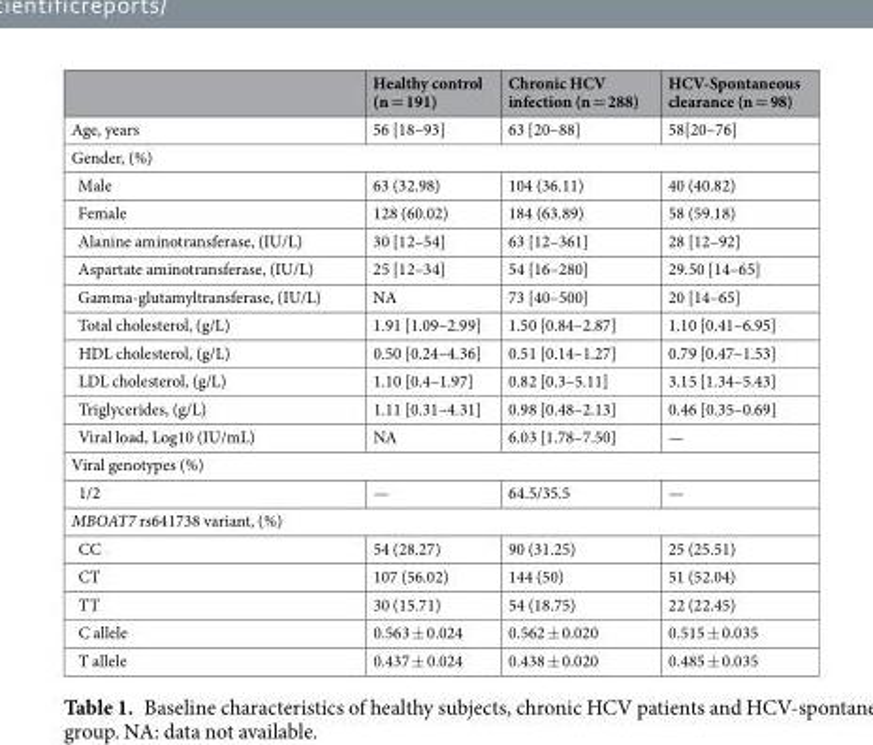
<table><thead><tr><td></td><td>Healthy control (n = 191)</td><td>Chronic HCV infection (n = 288)</td><td>HCV-Spontaneous clearance (n = 98)</td></tr></thead><tbody><tr><td>Age, years</td><td>56 [18–93]</td><td>63 [20–88]</td><td>58[20–76]</td></tr><tr><td colspan="4">Gender, (%)</td></tr><tr><td>Male</td><td>63 (32.98)</td><td>104 (36.11)</td><td>40 (40.82)</td></tr><tr><td>Female</td><td>128 (60.02)</td><td>184 (63.89)</td><td>58 (59.18)</td></tr><tr><td>Alanine aminotransferase, (IU/L)</td><td>30 [12–54]</td><td>63 [12–361]</td><td>28 [12–92]</td></tr><tr><td>Aspartate aminotransferase, (IU/L)</td><td>25 [12–34]</td><td>54 [16–280]</td><td>29.50 [14–65]</td></tr><tr><td>Gamma-glutamyltransferase, (IU/L)</td><td>NA</td><td>73 [40–500]</td><td>20 [14–65]</td></tr><tr><td>Total cholesterol, (g/L)</td><td>1.91 [1.09–2.99]</td><td>1.50 [0.84–2.87]</td><td>1.10 [0.41–6.95]</td></tr><tr><td>HDL cholesterol, (g/L)</td><td>0.50 [0.24–4.36]</td><td>0.51 [0.14–1.27]</td><td>0.79 [0.47–1.53]</td></tr><tr><td>LDL cholesterol, (g/L)</td><td>1.10 [0.4–1.97]</td><td>0.82 [0.3–5.11]</td><td>3.15 [1.34–5.43]</td></tr><tr><td>Triglycerides, (g/L)</td><td>1.11 [0.31–4.31]</td><td>0.98 [0.48–2.13]</td><td>0.46 [0.35–0.69]</td></tr><tr><td>Viral load, Log10 (IU/mL)</td><td>NA</td><td>6.03 [1.78–7.50]</td><td>—</td></tr><tr><td colspan="4">Viral genotypes (%)</td></tr><tr><td>1/2</td><td>—</td><td>64.5/35.5</td><td>—</td></tr><tr><td colspan="4">MBOAT7 rs641738 variant, (%)</td></tr><tr><td>CC</td><td>54 (28.27)</td><td>90 (31.25)</td><td>25 (25.51)</td></tr><tr><td>CT</td><td>107 (56.02)</td><td>144 (50)</td><td>51 (52.04)</td></tr><tr><td>TT</td><td>30 (15.71)</td><td>54 (18.75)</td><td>22 (22.45)</td></tr><tr><td>C allele</td><td>0.563 ± 0.024</td><td>0.562 ± 0.020</td><td>0.515 ± 0.035</td></tr><tr><td>T allele</td><td>0.437 ± 0.024</td><td>0.438 ± 0.020</td><td>0.485 ± 0.035</td></tr></tbody></table>